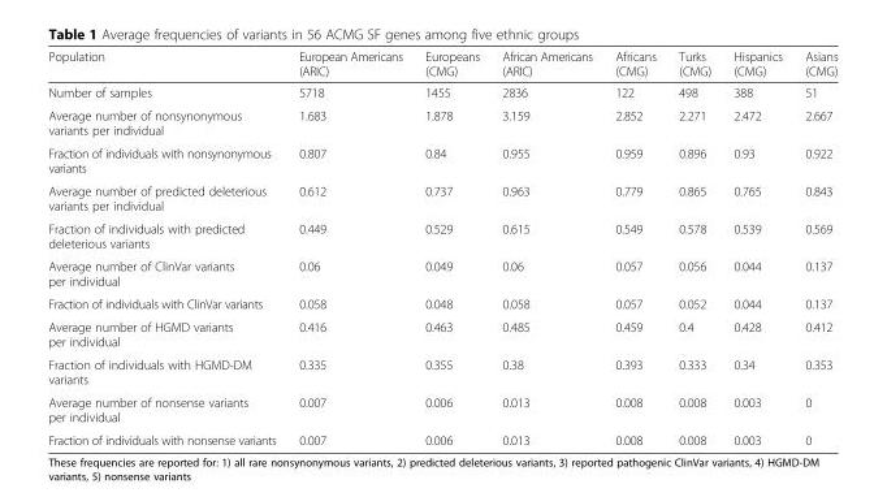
<table><thead><tr><td>Population</td><td>European Americans (ARIC)</td><td>Europeans (CMG)</td><td>African Americans (ARIC)</td><td>Africans (CMG)</td><td>Turks (CMG)</td><td>Hispanics (CMG)</td><td>Asians (CMG)</td></tr></thead><tbody><tr><td>Number of samples</td><td>5718</td><td>1455</td><td>2836</td><td>122</td><td>498</td><td>388</td><td>51</td></tr><tr><td>Average number of nonsynonymous variants per individual</td><td>1.683</td><td>1.878</td><td>3.159</td><td>2.852</td><td>2.271</td><td>2.472</td><td>2.667</td></tr><tr><td>Fraction of individuals with nonsynonymous variants</td><td>0.807</td><td>0.84</td><td>0.955</td><td>0.959</td><td>0.896</td><td>0.93</td><td>0.922</td></tr><tr><td>Average number of predicted deleterious variants per individual</td><td>0.612</td><td>0.737</td><td>0.963</td><td>0.779</td><td>0.865</td><td>0.765</td><td>0.843</td></tr><tr><td>Fraction of individuals with predicted deleterious variants</td><td>0.449</td><td>0.529</td><td>0.615</td><td>0.549</td><td>0.578</td><td>0.539</td><td>0.569</td></tr><tr><td>Average number of ClinVar variants per individual</td><td>0.06</td><td>0.049</td><td>0.06</td><td>0.057</td><td>0.056</td><td>0.044</td><td>0.137</td></tr><tr><td>Fraction of individuals with ClinVar variants</td><td>0.058</td><td>0.048</td><td>0.058</td><td>0.057</td><td>0.052</td><td>0.044</td><td>0.137</td></tr><tr><td>Average number of HGMD variants per individual</td><td>0.416</td><td>0.463</td><td>0.485</td><td>0.459</td><td>0.4</td><td>0.428</td><td>0.412</td></tr><tr><td>Fraction of individuals with HGMD-DM variants</td><td>0.335</td><td>0.355</td><td>0.38</td><td>0.393</td><td>0.333</td><td>0.34</td><td>0.353</td></tr><tr><td>Average number of nonsense variants per individual</td><td>0.007</td><td>0.006</td><td>0.013</td><td>0.008</td><td>0.008</td><td>0.003</td><td>0</td></tr><tr><td>Fraction of individuals with nonsense variants</td><td>0.007</td><td>0.006</td><td>0.013</td><td>0.008</td><td>0.008</td><td>0.003</td><td>0</td></tr></tbody></table>